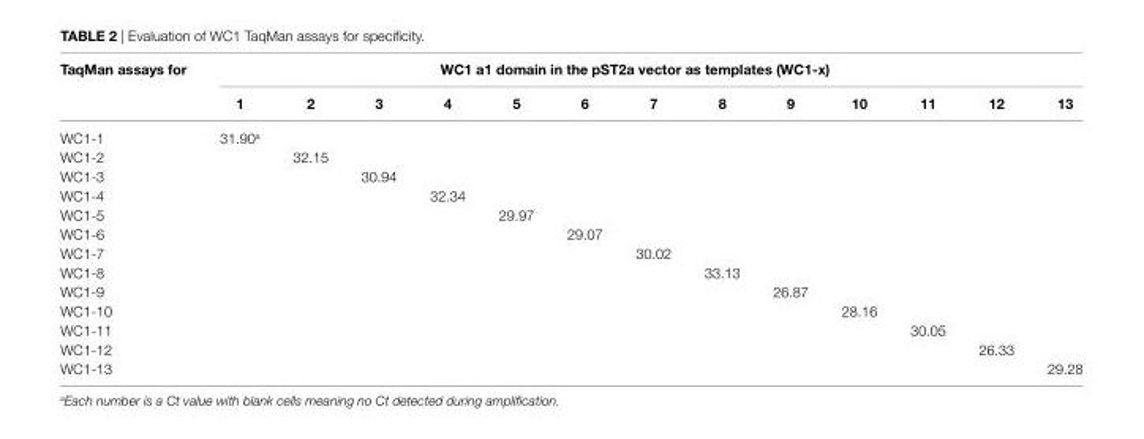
<table><thead><tr><td rowspan="2">TaqMan assays for</td><td colspan="13">Wc1 a1 domain in the psT2a vector as templates (Wc1-x)</td></tr><tr><td>1</td><td>2</td><td>3</td><td>4</td><td>5</td><td>6</td><td>7</td><td>8</td><td>9</td><td>10</td><td>11</td><td>12</td><td>13</td></tr></thead><tbody><tr><td>WC1-1</td><td>31.90<sup>a</sup></td><td></td><td></td><td></td><td></td><td></td><td></td><td></td><td></td><td></td><td></td><td></td><td></td></tr><tr><td>WC1-2</td><td></td><td>32.15</td><td></td><td></td><td></td><td></td><td></td><td></td><td></td><td></td><td></td><td></td><td></td></tr><tr><td>WC1-3</td><td></td><td></td><td>30.94</td><td></td><td></td><td></td><td></td><td></td><td></td><td></td><td></td><td></td><td></td></tr><tr><td>WC1-4</td><td></td><td></td><td></td><td>32.34</td><td></td><td></td><td></td><td></td><td></td><td></td><td></td><td></td><td></td></tr><tr><td>WC1-5</td><td></td><td></td><td></td><td></td><td>29.97</td><td></td><td></td><td></td><td></td><td></td><td></td><td></td><td></td></tr><tr><td>WC1-6</td><td></td><td></td><td></td><td></td><td></td><td>29.07</td><td></td><td></td><td></td><td></td><td></td><td></td><td></td></tr><tr><td>WC1-7</td><td></td><td></td><td></td><td></td><td></td><td></td><td>30.02</td><td></td><td></td><td></td><td></td><td></td><td></td></tr><tr><td>WC1-8</td><td></td><td></td><td></td><td></td><td></td><td></td><td></td><td>33.13</td><td></td><td></td><td></td><td></td><td></td></tr><tr><td>WC1-9</td><td></td><td></td><td></td><td></td><td></td><td></td><td></td><td></td><td>26.87</td><td></td><td></td><td></td><td></td></tr><tr><td>WC1-10</td><td></td><td></td><td></td><td></td><td></td><td></td><td></td><td></td><td></td><td>28.16</td><td></td><td></td><td></td></tr><tr><td>WC1-11</td><td></td><td></td><td></td><td></td><td></td><td></td><td></td><td></td><td></td><td></td><td>30.05</td><td></td><td></td></tr><tr><td>WC1-12</td><td></td><td></td><td></td><td></td><td></td><td></td><td></td><td></td><td></td><td></td><td></td><td>26.33</td><td></td></tr><tr><td>WC1-13</td><td></td><td></td><td></td><td></td><td></td><td></td><td></td><td></td><td></td><td></td><td></td><td></td><td>29.28</td></tr></tbody></table>